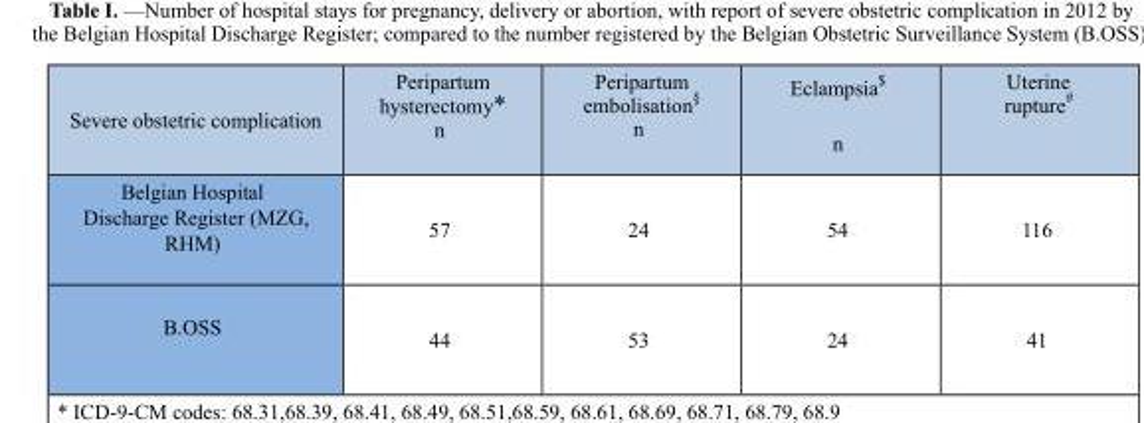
<table><thead><tr><td>Severe obstetric complication</td><td>Peripartum hysterectomy* n</td><td>Peripartum embolisation§ n</td><td>Eclampsia$ n</td><td>Uterine rupture#</td></tr></thead><tbody><tr><td>Belgian Hospital Discharge Register (MZG, RHM)</td><td>57</td><td>24</td><td>54</td><td>116</td></tr><tr><td>B.OSS</td><td>44</td><td>53</td><td>24</td><td>41</td></tr></tbody></table>